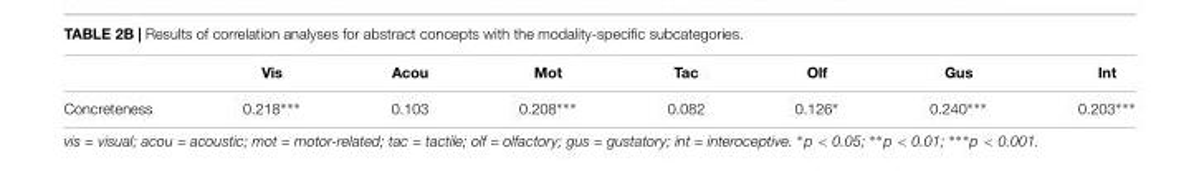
<table><thead><tr><td></td><td>Vis</td><td>Acou</td><td>Mot</td><td>Tac</td><td>Olf</td><td>Gus</td><td>Int</td></tr></thead><tbody><tr><td>Concreteness</td><td>0.218∗∗∗</td><td>0.103</td><td>0.208∗∗∗</td><td>0.082</td><td>0.126∗</td><td>0.240∗∗∗</td><td>0.203∗∗∗</td></tr></tbody></table>